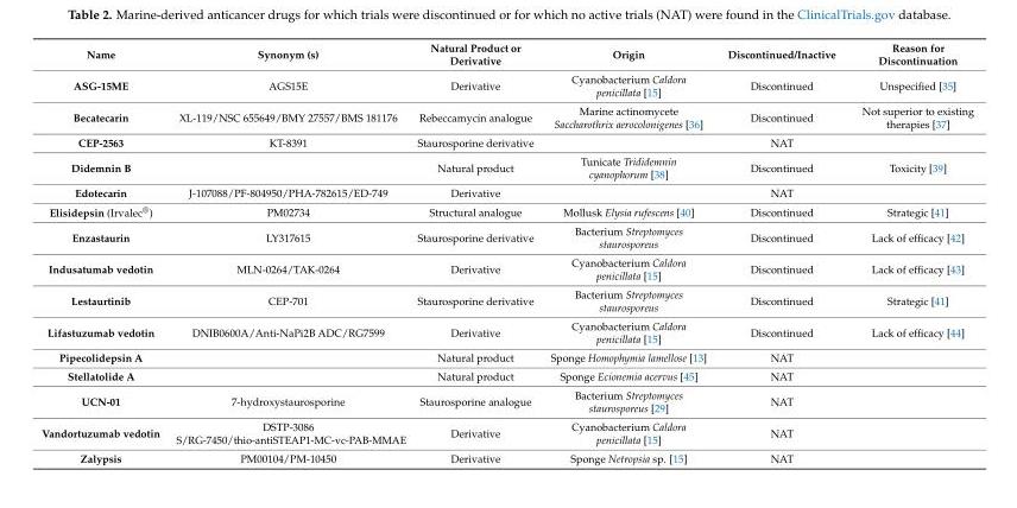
<table><thead><tr><td>Name</td><td>Synonym (s)</td><td>Natural Product or Derivative</td><td>Origin</td><td>Discontinued/Inactive</td><td>Reason for Discontinuation</td></tr></thead><tbody><tr><td>ASG-15ME</td><td>AGS15E</td><td>Derivative</td><td>Cyanobacterium Caldora penicillata [15]</td><td>Discontinued</td><td>Unspecified [35]</td></tr><tr><td>Becatecarin</td><td>XL-119/NSC 655649/BMY 27557/BMS 181176</td><td>Rebeccamycin analogue</td><td>Marine actinomycete Saccharothrix aerocolonigenes [36]</td><td>Discontinued</td><td>Not superior to existing therapies [37]</td></tr><tr><td>CEP-2563</td><td>KT-8391</td><td>Staurosporine derivative</td><td></td><td>NAT</td><td></td></tr><tr><td>Didemnin B</td><td></td><td>Natural product</td><td>Tunicate Trididemnin cyanophorum [38]</td><td>Discontinued</td><td>Toxicity [39]</td></tr><tr><td>Edotecarin</td><td>J-107088/PF-804950/PHA-782615/ED-749</td><td>Derivative</td><td></td><td>NAT</td><td></td></tr><tr><td>Elisidepsin (Irvalec<sup>®</sup>)</td><td>PM02734</td><td>Structural analogue</td><td>Mollusk Elysia rufescens [40]</td><td>Discontinued</td><td>Strategic [41]</td></tr><tr><td>Enzastaurin</td><td>LY317615</td><td>Staurosporine derivative</td><td>Bacterium Streptomyces staurosporeus</td><td>Discontinued</td><td>Lack of efficacy [42]</td></tr><tr><td>Indusatumab vedotin</td><td>MLN-0264/TAK-0264</td><td>Derivative</td><td>Cyanobacterium Caldora penicillata [15]</td><td>Discontinued</td><td>Lack of efficacy [43]</td></tr><tr><td>Lestaurtinib</td><td>CEP-701</td><td>Staurosporine derivative</td><td>Bacterium Streptomyces staurosporeus</td><td>Discontinued</td><td>Strategic [41]</td></tr><tr><td>Lifastuzumab vedotin</td><td>DNIB0600A/Anti-NaPi2B ADC/RG7599</td><td>Derivative</td><td>Cyanobacterium Caldora penicillata [15]</td><td>Discontinued</td><td>Lack of efficacy [44]</td></tr><tr><td>Pipecolidepsin A</td><td></td><td>Natural product</td><td>Sponge Homophymia lamellose [13]</td><td>NAT</td><td></td></tr><tr><td>Stellatolide A</td><td></td><td>Natural product</td><td>Sponge Ecionemia acervus [45]</td><td>NAT</td><td></td></tr><tr><td>UCN-01</td><td>7-hydroxystaurosporine</td><td>Staurosporine analogue</td><td>Bacterium Streptomyces staurosporeus [29]</td><td>NAT</td><td></td></tr><tr><td>Vandortuzumab vedotin</td><td>DSTP-3086 S/RG-7450/thio-antiSTEAP1-MC-vc-PAB-MMAE</td><td>Derivative</td><td>Cyanobacterium Caldora penicillata [15]</td><td>NAT</td><td></td></tr><tr><td>Zalypsis</td><td>PM00104/PM-10450</td><td>Derivative</td><td>Sponge Netropsia sp. [15]</td><td>NAT</td><td></td></tr></tbody></table>